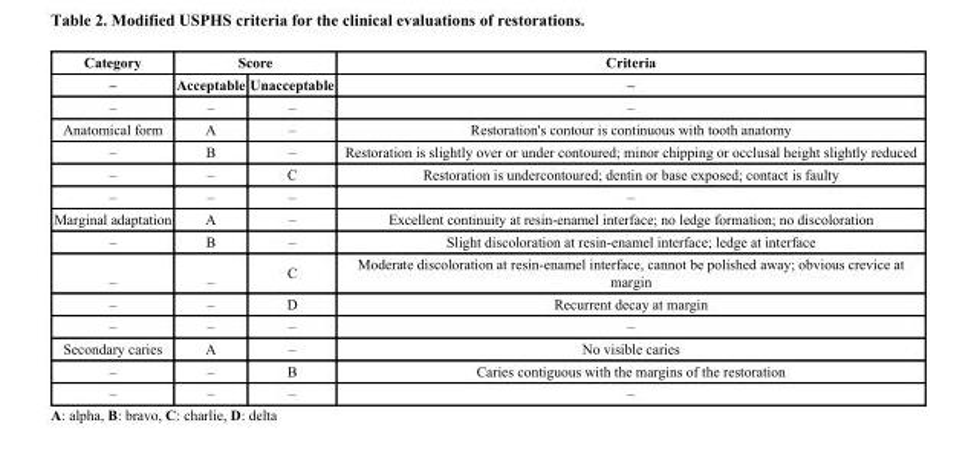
<table><thead><tr><td rowspan="2">Category –</td><td colspan="2">Score</td><td rowspan="2">Criteria –</td></tr><tr><td>Acceptable</td><td>Unacceptable</td></tr></thead><tbody><tr><td>–</td><td>–</td><td>–</td><td>–</td></tr><tr><td>Anatomical form</td><td>A</td><td>–</td><td>Restoration&#x27;s contour is continuous with tooth anatomy</td></tr><tr><td>–</td><td>B</td><td>–</td><td>Restoration is slightly over or under contoured; minor chipping or occlusal height slightly reduced</td></tr><tr><td>–</td><td>–</td><td>C</td><td>Restoration is undercontoured; dentin or base exposed; contact is faulty</td></tr><tr><td>–</td><td>–</td><td>–</td><td>–</td></tr><tr><td>Marginal adaptation</td><td>A</td><td>–</td><td>Excellent continuity at resin-enamel interface; no ledge formation; no discoloration</td></tr><tr><td>–</td><td>B</td><td>–</td><td>Slight discoloration at resin-enamel interface; ledge at interface</td></tr><tr><td>–</td><td>–</td><td>C</td><td>Moderate discoloration at resin-enamel interface, cannot be polished away; obvious crevice at margin</td></tr><tr><td>–</td><td>–</td><td>D</td><td>Recurrent decay at margin</td></tr><tr><td>–</td><td>–</td><td>–</td><td>–</td></tr><tr><td>Secondary caries</td><td>A</td><td>–</td><td>No visible caries</td></tr><tr><td>–</td><td>–</td><td>B</td><td>Caries contiguous with the margins of the restoration</td></tr><tr><td>–</td><td>–</td><td>–</td><td>–</td></tr></tbody></table>